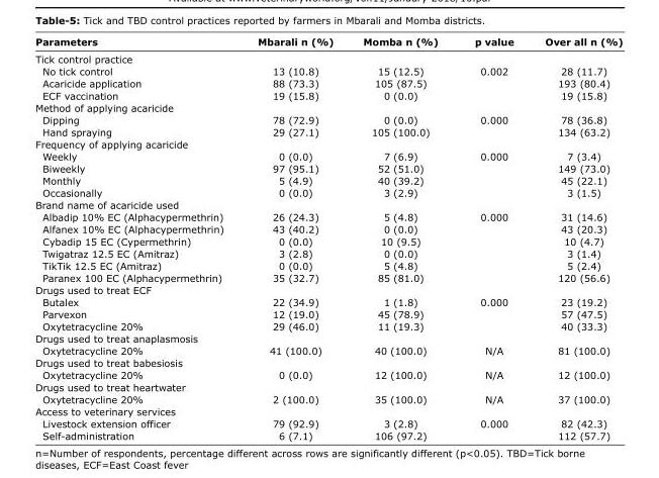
<table><thead><tr><td>Parameters</td><td>Mbarali n (%)</td><td>Momba n (%)</td><td>p value</td><td>Over all n (%)</td></tr></thead><tbody><tr><td colspan="5">Tick control practice</td></tr><tr><td>No tick control</td><td>13 (10.8)</td><td>15 (12.5)</td><td>0.002</td><td>28 (11.7)</td></tr><tr><td>Acaricide application</td><td>88 (73.3)</td><td>105 (87.5)</td><td></td><td>193 (80.4)</td></tr><tr><td>ECF vaccination</td><td>19 (15.8)</td><td>0 (0.0)</td><td></td><td>19 (15.8)</td></tr><tr><td colspan="5">Method of applying acaricide</td></tr><tr><td>Dipping</td><td>78 (72.9)</td><td>0 (0.0)</td><td>0.000</td><td>78 (36.8)</td></tr><tr><td>Hand spraying</td><td>29 (27.1)</td><td>105 (100.0)</td><td></td><td>134 (63.2)</td></tr><tr><td colspan="5">Frequency of applying acaricide</td></tr><tr><td>Weekly</td><td>0 (0.0)</td><td>7 (6.9)</td><td>0.000</td><td>7 (3.4)</td></tr><tr><td>Biweekly</td><td>97 (95.1)</td><td>52 (51.0)</td><td></td><td>149 (73.0)</td></tr><tr><td>Monthly</td><td>5 (4.9)</td><td>40 (39.2)</td><td></td><td>45 (22.1)</td></tr><tr><td>Occasionally</td><td>0 (0.0)</td><td>3 (2.9)</td><td></td><td>3 (1.5)</td></tr><tr><td colspan="5">Brand name of acaricide used</td></tr><tr><td>Albadip 10% EC (Alphacypermethrin)</td><td>26 (24.3)</td><td>5 (4.8)</td><td>0.000</td><td>31 (14.6)</td></tr><tr><td>Alfanex 10% EC (Alphacypermethrin)</td><td>43 (40.2)</td><td>0 (0.0)</td><td></td><td>43 (20.3)</td></tr><tr><td>Cybadip 15 EC (Cypermethrin)</td><td>0 (0.0)</td><td>10 (9.5)</td><td></td><td>10 (4.7)</td></tr><tr><td>Twigatraz 12.5 EC (Amitraz)</td><td>3 (2.8)</td><td>0 (0.0)</td><td></td><td>3 (1.4)</td></tr><tr><td>TikTik 12.5 EC (Amitraz)</td><td>0 (0.0)</td><td>5 (4.8)</td><td></td><td>5 (2.4)</td></tr><tr><td>Paranex 100 EC (Alphacypermethrin)</td><td>35 (32.7)</td><td>85 (81.0)</td><td></td><td>120 (56.6)</td></tr><tr><td colspan="5">Drugs used to treat ECF</td></tr><tr><td>Butalex</td><td>22 (34.9)</td><td>1 (1.8)</td><td>0.000</td><td>23 (19.2)</td></tr><tr><td>Parvexon</td><td>12 (19.0)</td><td>45 (78.9)</td><td></td><td>57 (47.5)</td></tr><tr><td>Oxytetracycline 20%</td><td>29 (46.0)</td><td>11 (19.3)</td><td></td><td>40 (33.3)</td></tr><tr><td colspan="5">Drugs used to treat anaplasmosis</td></tr><tr><td>Oxytetracycline 20%</td><td>41 (100.0)</td><td>40 (100.0)</td><td>N/A</td><td>81 (100.0)</td></tr><tr><td colspan="5">Drugs used to treat babesiosis</td></tr><tr><td>Oxytetracycline 20%</td><td>0 (0.0)</td><td>12 (100.0)</td><td>N/A</td><td>12 (100.0)</td></tr><tr><td colspan="5">Drugs used to treat heartwater</td></tr><tr><td>Oxytetracycline 20%</td><td>2 (100.0)</td><td>35 (100.0)</td><td>N/A</td><td>37 (100.0)</td></tr><tr><td colspan="5">Access to veterinary services</td></tr><tr><td>Livestock extension officer</td><td>79 (92.9)</td><td>3 (2.8)</td><td>0.000</td><td>82 (42.3)</td></tr><tr><td>Self-administration</td><td>6 (7.1)</td><td>106 (97.2)</td><td></td><td>112 (57.7)</td></tr></tbody></table>